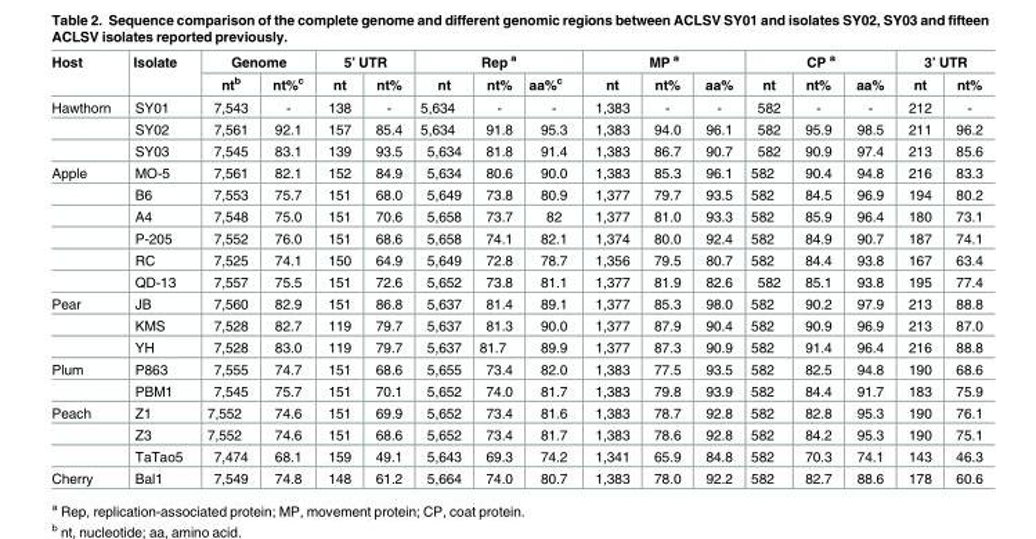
<table><thead><tr><td rowspan="2">Host</td><td rowspan="2">Isolate</td><td colspan="2">Genome</td><td colspan="2">5’ UTR</td><td colspan="3">Rep <sup>a</sup></td><td colspan="3">MP <sup>a</sup></td><td colspan="3">CP <sup>a</sup></td><td colspan="2">3’ UTR</td></tr><tr><td>nt<sup>b</sup></td><td>nt%<sup>c</sup></td><td>nt</td><td>nt%</td><td>nt</td><td>nt%</td><td>aa%<sup>c</sup></td><td>nt</td><td>nt%</td><td>aa%</td><td>nt</td><td>nt%</td><td>aa%</td><td>nt</td><td>nt%</td></tr></thead><tbody><tr><td rowspan="3">Hawthorn</td><td>SY01</td><td>7,543</td><td>-</td><td>138</td><td>-</td><td>5,634</td><td>-</td><td>-</td><td>1,383</td><td>-</td><td>-</td><td>582</td><td>-</td><td>-</td><td>212</td><td>-</td></tr><tr><td>SY02</td><td>7,561</td><td>92.1</td><td>157</td><td>85.4</td><td>5,634</td><td>91.8</td><td>95.3</td><td>1,383</td><td>94.0</td><td>96.1</td><td>582</td><td>95.9</td><td>98.5</td><td>211</td><td>96.2</td></tr><tr><td>SY03</td><td>7,545</td><td>83.1</td><td>139</td><td>93.5</td><td>5,634</td><td>81.8</td><td>91.4</td><td>1,383</td><td>86.7</td><td>90.7</td><td>582</td><td>90.9</td><td>97.4</td><td>213</td><td>85.6</td></tr><tr><td rowspan="6">Apple</td><td>MO-5</td><td>7,561</td><td>82.1</td><td>152</td><td>84.9</td><td>5,634</td><td>80.6</td><td>90.0</td><td>1,383</td><td>85.3</td><td>96.1</td><td>582</td><td>90.4</td><td>94.8</td><td>216</td><td>83.3</td></tr><tr><td>B6</td><td>7,553</td><td>75.7</td><td>151</td><td>68.0</td><td>5,649</td><td>73.8</td><td>80.9</td><td>1,377</td><td>79.7</td><td>93.5</td><td>582</td><td>84.5</td><td>96.9</td><td>194</td><td>80.2</td></tr><tr><td>A4</td><td>7,548</td><td>75.0</td><td>151</td><td>70.6</td><td>5,658</td><td>73.7</td><td>82</td><td>1,377</td><td>81.0</td><td>93.3</td><td>582</td><td>85.9</td><td>96.4</td><td>180</td><td>73.1</td></tr><tr><td>P-205</td><td>7,552</td><td>76.0</td><td>151</td><td>68.6</td><td>5,658</td><td>74.1</td><td>82.1</td><td>1,374</td><td>80.0</td><td>92.4</td><td>582</td><td>84.9</td><td>90.7</td><td>187</td><td>74.1</td></tr><tr><td>RC</td><td>7,525</td><td>74.1</td><td>150</td><td>64.9</td><td>5,649</td><td>72.8</td><td>78.7</td><td>1,356</td><td>79.5</td><td>80.7</td><td>582</td><td>84.4</td><td>93.8</td><td>167</td><td>63.4</td></tr><tr><td>QD-13</td><td>7,557</td><td>75.5</td><td>151</td><td>72.6</td><td>5,652</td><td>73.8</td><td>81.1</td><td>1,377</td><td>81.9</td><td>82.6</td><td>582</td><td>85.1</td><td>93.8</td><td>195</td><td>77.4</td></tr><tr><td rowspan="3">Pear</td><td>JB</td><td>7,560</td><td>82.9</td><td>151</td><td>86.8</td><td>5,637</td><td>81.4</td><td>89.1</td><td>1,377</td><td>85.3</td><td>98.0</td><td>582</td><td>90.2</td><td>97.9</td><td>213</td><td>88.8</td></tr><tr><td>KMS</td><td>7,528</td><td>82.7</td><td>119</td><td>79.7</td><td>5,637</td><td>81.3</td><td>90.0</td><td>1,377</td><td>87.9</td><td>90.4</td><td>582</td><td>90.9</td><td>96.9</td><td>213</td><td>87.0</td></tr><tr><td>YH</td><td>7,528</td><td>83.0</td><td>119</td><td>79.7</td><td>5,637</td><td>81.7</td><td>89.9</td><td>1,377</td><td>87.3</td><td>90.9</td><td>582</td><td>91.4</td><td>96.4</td><td>216</td><td>88.8</td></tr><tr><td rowspan="2">Plum</td><td>P863</td><td>7,555</td><td>74.7</td><td>151</td><td>68.6</td><td>5,655</td><td>73.4</td><td>82.0</td><td>1,383</td><td>77.5</td><td>93.5</td><td>582</td><td>82.5</td><td>94.8</td><td>190</td><td>68.6</td></tr><tr><td>PBM1</td><td>7,545</td><td>75.7</td><td>151</td><td>70.1</td><td>5,652</td><td>74.0</td><td>81.7</td><td>1,383</td><td>79.8</td><td>93.9</td><td>582</td><td>84.4</td><td>91.7</td><td>183</td><td>75.9</td></tr><tr><td rowspan="3">Peach</td><td>Z1</td><td>7,552</td><td>74.6</td><td>151</td><td>69.9</td><td>5,652</td><td>73.4</td><td>81.6</td><td>1,383</td><td>78.7</td><td>92.8</td><td>582</td><td>82.8</td><td>95.3</td><td>190</td><td>76.1</td></tr><tr><td>Z3</td><td>7,552</td><td>74.6</td><td>151</td><td>68.6</td><td>5,652</td><td>73.4</td><td>81.7</td><td>1,383</td><td>78.6</td><td>92.8</td><td>582</td><td>84.2</td><td>95.3</td><td>190</td><td>75.1</td></tr><tr><td>TaTao5</td><td>7,474</td><td>68.1</td><td>159</td><td>49.1</td><td>5,643</td><td>69.3</td><td>74.2</td><td>1,341</td><td>65.9</td><td>84.8</td><td>582</td><td>70.3</td><td>74.1</td><td>143</td><td>46.3</td></tr><tr><td>Cherry</td><td>Bal1</td><td>7,549</td><td>74.8</td><td>148</td><td>61.2</td><td>5,664</td><td>74.0</td><td>80.7</td><td>1,383</td><td>78.0</td><td>92.2</td><td>582</td><td>82.7</td><td>88.6</td><td>178</td><td>60.6</td></tr></tbody></table>